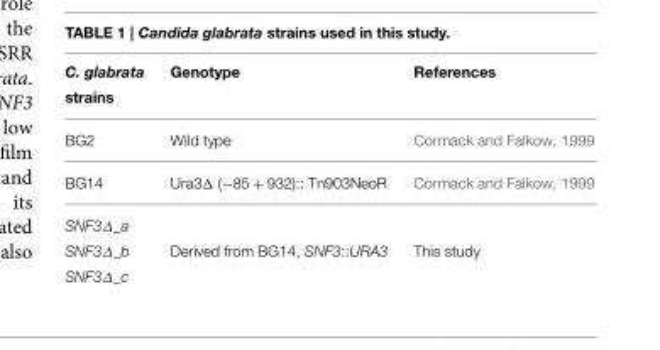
<table><thead><tr><td rowspan="2">C. glabrata strains</td><td rowspan="2">Genotype</td><td rowspan="2">References</td></tr><tr></tr></thead><tbody><tr><td>BG2</td><td>Wild type</td><td>Cormack and Falkow, 1999</td></tr><tr><td>BG14</td><td>Ura3Δ (−85 + 932):: Tn903NeoR</td><td>Cormack and Falkow, 1999</td></tr><tr><td colspan="3">SNF3∆_a</td></tr><tr><td>SNF3∆_b</td><td>Derived from BG14, SNF3::URA3</td><td>This study</td></tr><tr><td>SNF3∆_c</td><td></td><td></td></tr></tbody></table>